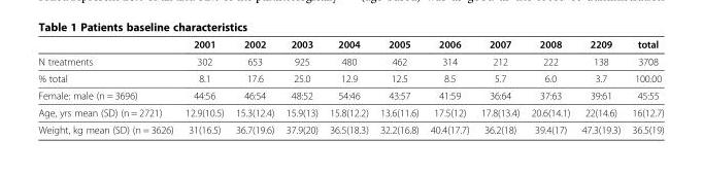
<table><thead><tr><td></td><td>2001</td><td>2002</td><td>2003</td><td>2004</td><td>2005</td><td>2006</td><td>2007</td><td>2008</td><td>2209</td><td>total</td></tr></thead><tbody><tr><td>N treatments</td><td>302</td><td>653</td><td>925</td><td>480</td><td>462</td><td>314</td><td>212</td><td>222</td><td>138</td><td>3708</td></tr><tr><td>% total</td><td>8.1</td><td>17.6</td><td>25.0</td><td>12.9</td><td>12.5</td><td>8.5</td><td>5.7</td><td>6.0</td><td>3.7</td><td>100.00</td></tr><tr><td>Female: male (n = 3696)</td><td>44:56</td><td>46:54</td><td>48:52</td><td>54:46</td><td>43:57</td><td>41:59</td><td>36:64</td><td>37:63</td><td>39:61</td><td>45:55</td></tr><tr><td>Age, yrs mean (SD) (n = 2721)</td><td>12.9(10.5)</td><td>15.3(12.4)</td><td>15.9(13)</td><td>15.8(12.2)</td><td>13.6(11.6)</td><td>17.5(12)</td><td>17.8(13.4)</td><td>20.6(14.1)</td><td>22(14.6)</td><td>16(12.7)</td></tr><tr><td>Weight, kg mean (SD) (n = 3626)</td><td>31(16.5)</td><td>36.7(19.6)</td><td>37.9(20)</td><td>36.5(18.3)</td><td>32.2(16.8)</td><td>40.4(17.7)</td><td>36.2(18)</td><td>39.4(17)</td><td>47.3(19.3)</td><td>36.5(19)</td></tr></tbody></table>